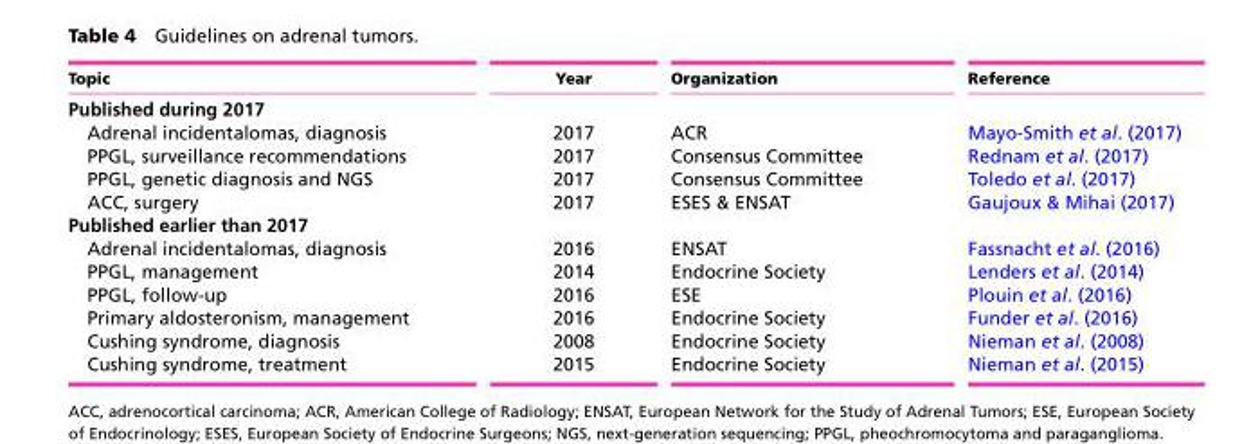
<table><thead><tr><td>Topic</td><td>Year</td><td>Organization</td><td>Reference</td></tr></thead><tbody><tr><td colspan="4">Published during 2017</td></tr><tr><td>Adrenal incidentalomas, diagnosis</td><td>2017</td><td>ACR</td><td>Mayo-Smith et al. (2017)</td></tr><tr><td>PPGL, surveillance recommendations</td><td>2017</td><td>Consensus Committee</td><td>Rednam et al. (2017)</td></tr><tr><td>PPGL, genetic diagnosis and NGS</td><td>2017</td><td>Consensus Committee</td><td>Toledo et al. (2017)</td></tr><tr><td>ACC, surgery</td><td>2017</td><td>ESES &amp; ENSAT</td><td>Gaujoux &amp; Mihai (2017)</td></tr><tr><td colspan="4">Published earlier than 2017</td></tr><tr><td>Adrenal incidentalomas, diagnosis</td><td>2016</td><td>ENSAT</td><td>Fassnacht et al. (2016)</td></tr><tr><td>PPGL, management</td><td>2014</td><td>Endocrine Society</td><td>Lenders et al. (2014)</td></tr><tr><td>PPGL, follow-up</td><td>2016</td><td>ESE</td><td>Plouin et al. (2016)</td></tr><tr><td>Primary aldosteronism, management</td><td>2016</td><td>Endocrine Society</td><td>Funder et al. (2016)</td></tr><tr><td>Cushing syndrome, diagnosis</td><td>2008</td><td>Endocrine Society</td><td>Nieman et al. (2008)</td></tr><tr><td>Cushing syndrome, treatment</td><td>2015</td><td>Endocrine Society</td><td>Nieman et al. (2015)</td></tr></tbody></table>